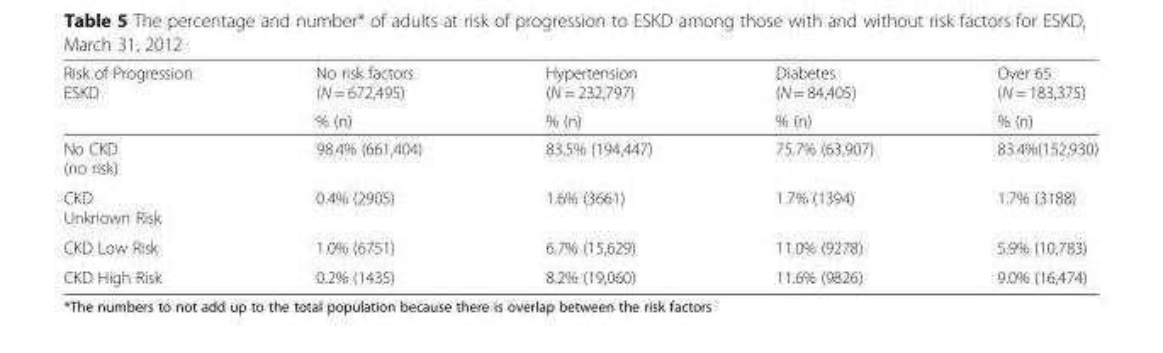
<table><thead><tr><td rowspan="2">Risk of Progression ESKD</td><td rowspan="2">No risk factors (N = 672,495) % (n)</td><td rowspan="2">Hypertension (N = 232,797) % (n)</td><td rowspan="2">Diabetes (N = 84,405) % (n)</td><td rowspan="2">Over 65 (N = 183,375) % (n)</td></tr><tr></tr></thead><tbody><tr><td>No CKD (no risk)</td><td>98.4% (661,404)</td><td>83.5% (194,447)</td><td>75.7% (63,907)</td><td>83.4%(152,930)</td></tr><tr><td>CKD Unknown Risk</td><td>0.4% (2905)</td><td>1.6% (3661)</td><td>1.7% (1394)</td><td>1.7% (3188)</td></tr><tr><td>CKD Low Risk</td><td>1.0% (6751)</td><td>6.7% (15,629)</td><td>11.0% (9278)</td><td>5.9% (10,783)</td></tr><tr><td>CKD High Risk</td><td>0.2% (1435)</td><td>8.2% (19,060)</td><td>11.6% (9826)</td><td>9.0% (16,474)</td></tr></tbody></table>